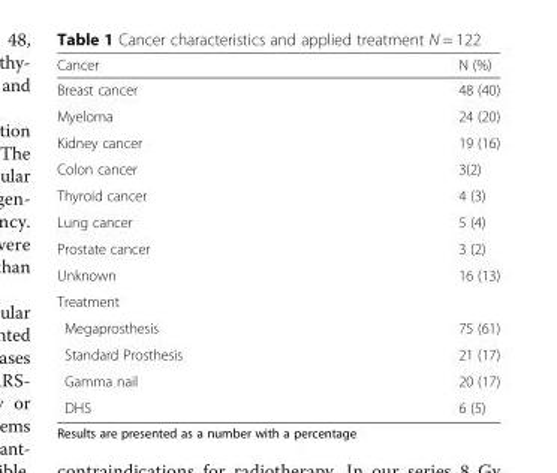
<table><thead><tr><td>Cancer</td><td>N (%)</td></tr></thead><tbody><tr><td>Breast cancer</td><td>48 (40)</td></tr><tr><td>Myeloma</td><td>24 (20)</td></tr><tr><td>Kidney cancer</td><td>19 (16)</td></tr><tr><td>Colon cancer</td><td>3(2)</td></tr><tr><td>Thyroid cancer</td><td>4 (3)</td></tr><tr><td>Lung cancer</td><td>5 (4)</td></tr><tr><td>Prostate cancer</td><td>3 (2)</td></tr><tr><td>Unknown</td><td>16 (13)</td></tr><tr><td colspan="2">Treatment</td></tr><tr><td>Megaprosthesis</td><td>75 (61)</td></tr><tr><td>Standard Prosthesis</td><td>21 (17)</td></tr><tr><td>Gamma nail</td><td>20 (17)</td></tr><tr><td>DHS</td><td>6 (5)</td></tr></tbody></table>